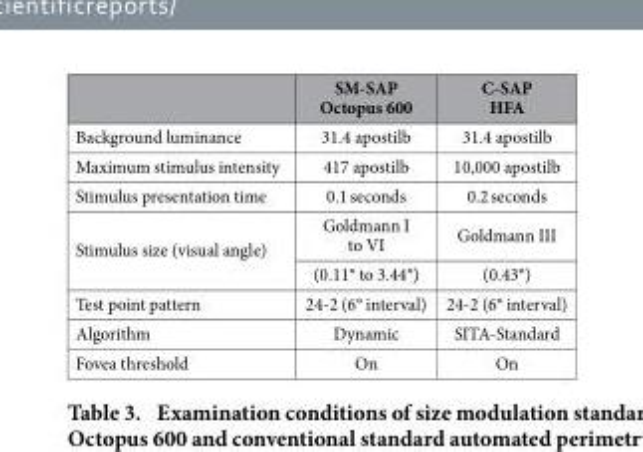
<table><thead><tr><td></td><td>SM-SAP Octopus 600</td><td>C-SAP HFA</td></tr></thead><tbody><tr><td>Background luminance</td><td>31.4 apostilb</td><td>31.4 apostilb</td></tr><tr><td>Maximum stimulus intensity</td><td>417 apostilb</td><td>10,000 apostilb</td></tr><tr><td>Stimulus presentation time</td><td>0.1 seconds</td><td>0.2 seconds</td></tr><tr><td rowspan="2">Stimulus size (visual angle)</td><td>Goldmann I to VI</td><td>Goldmann III</td></tr><tr><td>(0.11° to 3.44°)</td><td>(0.43°)</td></tr><tr><td>Test point pattern</td><td>24-2 (6° interval)</td><td>24-2 (6° interval)</td></tr><tr><td>Algorithm</td><td>Dynamic</td><td>SITA-Standard</td></tr><tr><td>Fovea threshold</td><td>On</td><td>On</td></tr></tbody></table>